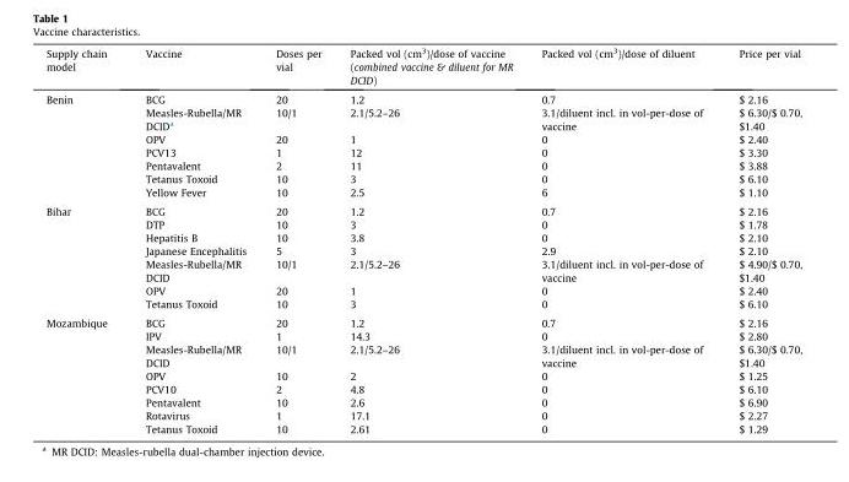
<table><thead><tr><td>Supply chain model</td><td>Vaccine</td><td>Doses per vial</td><td>Packed vol (cm<sup>3</sup>)/dose of vaccine (combined vaccine &amp; diluent for MR DCID)</td><td>Packed vol (cm<sup>3</sup>)/dose of diluent</td><td>Price per vial</td></tr></thead><tbody><tr><td rowspan="7">Benin</td><td>BCG</td><td>20</td><td>1.2</td><td>0.7</td><td>$ 2.16</td></tr><tr><td>Measles-Rubella/MR DCID<sup>a</sup></td><td>10/1</td><td>2.1/5.2–26</td><td>3.1/diluent incl. in vol-per-dose of vaccine</td><td>$ 6.30/$ 0.70, $1.40</td></tr><tr><td>OPV</td><td>20</td><td>1</td><td>0</td><td>$ 2.40</td></tr><tr><td>PCV13</td><td>1</td><td>12</td><td>0</td><td>$ 3.30</td></tr><tr><td>Pentavalent</td><td>2</td><td>11</td><td>0</td><td>$ 3.88</td></tr><tr><td>Tetanus Toxoid</td><td>10</td><td>3</td><td>0</td><td>$ 6.10</td></tr><tr><td>Yellow Fever</td><td>10</td><td>2.5</td><td>6</td><td>$ 1.10</td></tr><tr><td rowspan="7">Bihar</td><td>BCG</td><td>20</td><td>1.2</td><td>0.7</td><td>$ 2.16</td></tr><tr><td>DTP</td><td>10</td><td>3</td><td>0</td><td>$ 1.78</td></tr><tr><td>Hepatitis B</td><td>10</td><td>3.8</td><td>0</td><td>$ 2.10</td></tr><tr><td>Japanese Encephalitis</td><td>5</td><td>3</td><td>2.9</td><td>$ 2.10</td></tr><tr><td>Measles-Rubella/MR DCID</td><td>10/1</td><td>2.1/5.2–26</td><td>3.1/diluent incl. in vol-per-dose of vaccine</td><td>$ 4.90/$ 0.70, $1.40</td></tr><tr><td>OPV</td><td>20</td><td>1</td><td>0</td><td>$ 2.40</td></tr><tr><td>Tetanus Toxoid</td><td>10</td><td>3</td><td>0</td><td>$ 6.10</td></tr><tr><td rowspan="8">Mozambique</td><td>BCG</td><td>20</td><td>1.2</td><td>0.7</td><td>$ 2.16</td></tr><tr><td>IPV</td><td>1</td><td>14.3</td><td>0</td><td>$ 2.80</td></tr><tr><td>Measles-Rubella/MR DCID</td><td>10/1</td><td>2.1/5.2–26</td><td>3.1/diluent incl. in vol-per-dose of vaccine</td><td>$ 6.30/$ 0.70, $1.40</td></tr><tr><td>OPV</td><td>10</td><td>2</td><td>0</td><td>$ 1.25</td></tr><tr><td>PCV10</td><td>2</td><td>4.8</td><td>0</td><td>$ 6.10</td></tr><tr><td>Pentavalent</td><td>10</td><td>2.6</td><td>0</td><td>$ 6.90</td></tr><tr><td>Rotavirus</td><td>1</td><td>17.1</td><td>0</td><td>$ 2.27</td></tr><tr><td>Tetanus Toxoid</td><td>10</td><td>2.61</td><td>0</td><td>$ 1.29</td></tr></tbody></table>